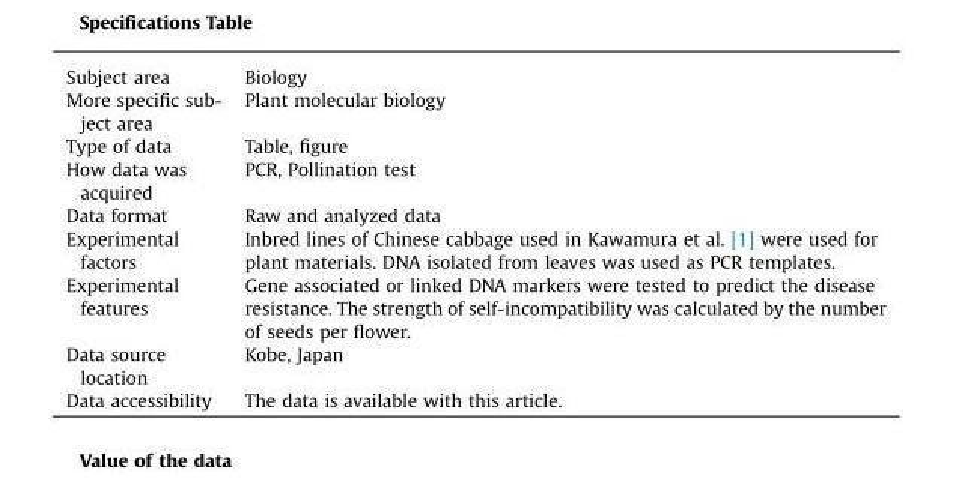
<table><thead><tr><td>Subject area</td><td>Biology</td></tr></thead><tbody><tr><td>More specific sub- ject area</td><td>Plant molecular biology</td></tr><tr><td>Type of data</td><td>Table, figure</td></tr><tr><td>How data was acquired</td><td>PCR, Pollination test</td></tr><tr><td>Data format</td><td>Raw and analyzed data</td></tr><tr><td>Experimental factors</td><td>Inbred lines of Chinese cabbage used in Kawamura et al. [1] were used for plant materials. DNA isolated from leaves was used as PCR templates.</td></tr><tr><td>Experimental features</td><td>Gene associated or linked DNA markers were tested to predict the disease resistance. The strength of self-incompatibility was calculated by the number of seeds per flower.</td></tr><tr><td>Data source location</td><td>Kobe, Japan</td></tr><tr><td>Data accessibility</td><td>The data is available with this article.</td></tr></tbody></table>